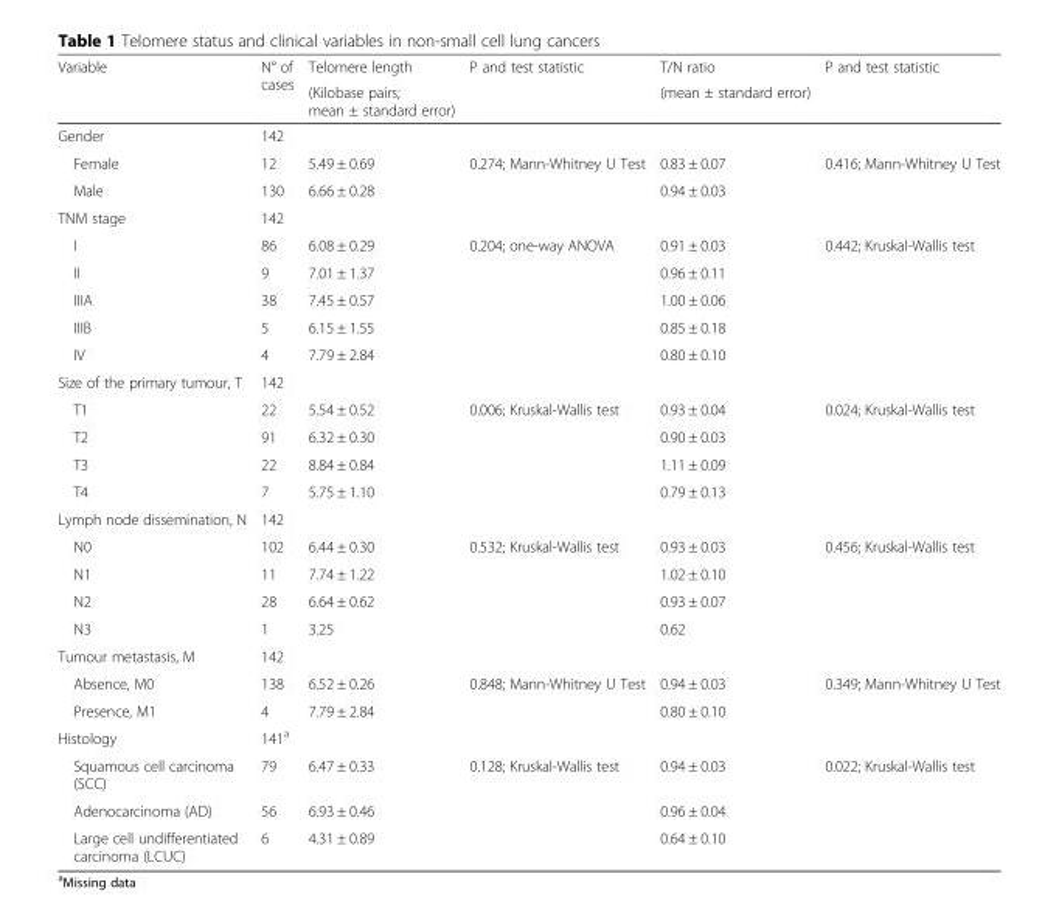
<table><thead><tr><td rowspan="2">Variable</td><td rowspan="2">N° of cases</td><td rowspan="2">Telomere length (Kilobase pairs; mean ± standard error)</td><td rowspan="2">P and test statistic</td><td rowspan="2">T/N ratio (mean ± standard error)</td><td rowspan="2">P and test statistic</td></tr><tr></tr></thead><tbody><tr><td>Gender</td><td>142</td><td></td><td></td><td></td><td></td></tr><tr><td>Female</td><td>12</td><td>5.49 ± 0.69</td><td rowspan="2">0.274; Mann-Whitney U Test</td><td>0.83 ± 0.07</td><td rowspan="2">0.416; Mann-Whitney U Test</td></tr><tr><td>Male</td><td>130</td><td>6.66 ± 0.28</td><td>0.94 ± 0.03</td></tr><tr><td>TNM stage</td><td>142</td><td colspan="4"></td></tr><tr><td>I</td><td>86</td><td>6.08 ± 0.29</td><td rowspan="5">0.204; one-way ANOVA</td><td>0.91 ± 0.03</td><td rowspan="5">0.442; Kruskal-Wallis test</td></tr><tr><td>II</td><td>9</td><td>7.01 ± 1.37</td><td>0.96 ± 0.11</td></tr><tr><td>IIIA</td><td>38</td><td>7.45 ± 0.57</td><td>1.00 ± 0.06</td></tr><tr><td>IIIB</td><td>5</td><td>6.15 ± 1.55</td><td>0.85 ± 0.18</td></tr><tr><td>IV</td><td>4</td><td>7.79 ± 2.84</td><td>0.80 ± 0.10</td></tr><tr><td>Size of the primary tumour, T</td><td>142</td><td colspan="4"></td></tr><tr><td>T1</td><td>22</td><td>5.54 ± 0.52</td><td rowspan="4">0.006; Kruskal-Wallis test</td><td>0.93 ± 0.04</td><td rowspan="4">0.024; Kruskal-Wallis test</td></tr><tr><td>T2</td><td>91</td><td>6.32 ± 0.30</td><td>0.90 ± 0.03</td></tr><tr><td>T3</td><td>22</td><td>8.84 ± 0.84</td><td>1.11 ± 0.09</td></tr><tr><td>T4</td><td>7</td><td>5.75 ± 1.10</td><td>0.79 ± 0.13</td></tr><tr><td>Lymph node dissemination, N</td><td>142</td><td colspan="4"></td></tr><tr><td>N0</td><td>102</td><td>6.44 ± 0.30</td><td rowspan="4">0.532; Kruskal-Wallis test</td><td>0.93 ± 0.03</td><td rowspan="4">0.456; Kruskal-Wallis test</td></tr><tr><td>N1</td><td>11</td><td>7.74 ± 1.22</td><td>1.02 ± 0.10</td></tr><tr><td>N2</td><td>28</td><td>6.64 ± 0.62</td><td>0.93 ± 0.07</td></tr><tr><td>N3</td><td>1</td><td>3.25</td><td>0.62</td></tr><tr><td>Tumour metastasis, M</td><td>142</td><td colspan="4"></td></tr><tr><td>Absence, M0</td><td>138</td><td>6.52 ± 0.26</td><td rowspan="2">0.848; Mann-Whitney U Test</td><td>0.94 ± 0.03</td><td rowspan="2">0.349; Mann-Whitney U Test</td></tr><tr><td>Presence, M1</td><td>4</td><td>7.79 ± 2.84</td><td>0.80 ± 0.10</td></tr><tr><td>Histology</td><td>141<sup>a</sup></td><td colspan="4"></td></tr><tr><td>Squamous cell carcinoma (SCC)</td><td>79</td><td>6.47 ± 0.33</td><td rowspan="3">0.128; Kruskal-Wallis test</td><td>0.94 ± 0.03</td><td rowspan="3">0.022; Kruskal-Wallis test</td></tr><tr><td>Adenocarcinoma (AD)</td><td>56</td><td>6.93 ± 0.46</td><td>0.96 ± 0.04</td></tr><tr><td>Large cell undifferentiated carcinoma (LCUC)</td><td>6</td><td>4.31 ± 0.89</td><td>0.64 ± 0.10</td></tr></tbody></table>